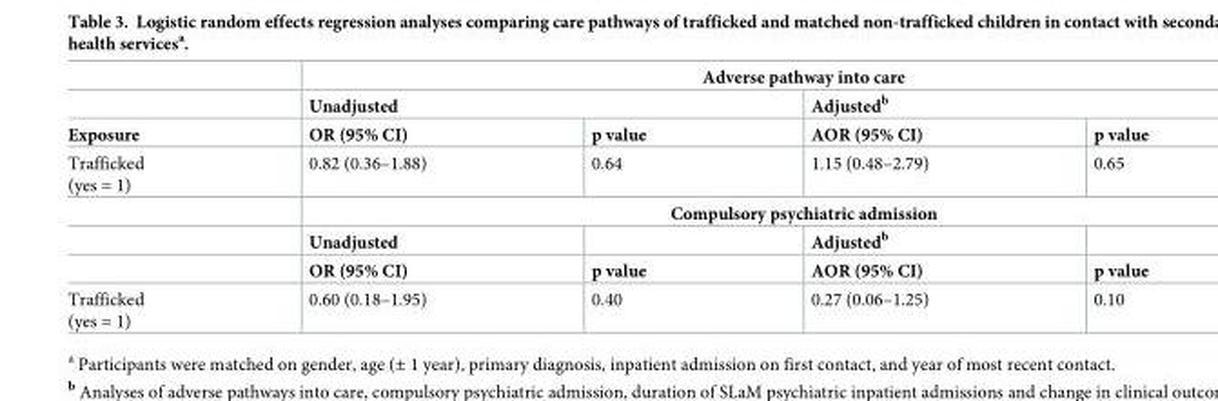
<table><thead><tr><td rowspan="3">Exposure</td><td colspan="4">Adverse pathway into care</td></tr><tr><td colspan="2">Unadjusted</td><td colspan="2">Adjusted<sup>b</sup></td></tr><tr><td>OR (95% CI)</td><td>p value</td><td>AOR (95% CI)</td><td>p value</td></tr></thead><tbody><tr><td rowspan="4">Trafficked (yes = 1)</td><td>0.82 (0.36–1.88)</td><td>0.64</td><td>1.15 (0.48–2.79)</td><td>0.65</td></tr><tr><td colspan="4">Compulsory psychiatric admission</td></tr><tr><td>Unadjusted</td><td></td><td>Adjusted<sup>b</sup></td><td></td></tr><tr><td>OR (95% CI)</td><td>p value</td><td>AOR (95% CI)</td><td>p value</td></tr><tr><td>Trafficked (yes = 1)</td><td>0.60 (0.18–1.95)</td><td>0.40</td><td>0.27 (0.06–1.25)</td><td>0.10</td></tr></tbody></table>